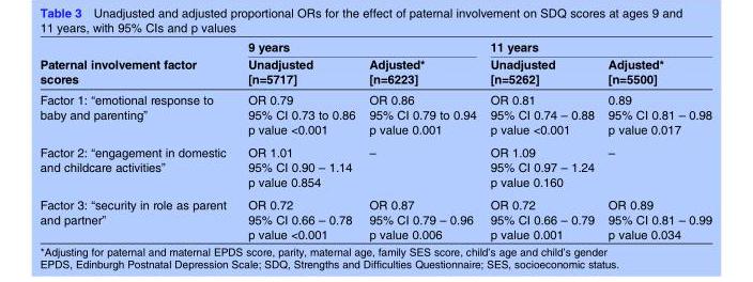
<table><thead><tr><td rowspan="2">Paternal involvement factor scores</td><td colspan="2">9 years</td><td colspan="2">11 years</td></tr><tr><td>Unadjusted [n=5717]</td><td>Adjusted* [n=6223]</td><td>Unadjusted [n=5262]</td><td>Adjusted* [n=5500]</td></tr></thead><tbody><tr><td>Factor 1: “emotional response to baby and parenting”</td><td>OR 0.79 95% CI 0.73 to 0.86 p value &lt;0.001</td><td>OR 0.86 95% CI 0.79 to 0.94 p value 0.001</td><td>OR 0.81 95% CI 0.74 – 0.88 p value &lt;0.001</td><td>0.89 95% CI 0.81 – 0.98 p value 0.017</td></tr><tr><td>Factor 2: “engagement in domestic and childcare activities”</td><td>OR 1.01 95% CI 0.90 – 1.14 p value 0.854</td><td>–</td><td>OR 1.09 95% CI 0.97 – 1.24 p value 0.160</td><td>–</td></tr><tr><td>Factor 3: “security in role as parent and partner”</td><td>OR 0.72 95% CI 0.66 – 0.78 p value &lt;0.001</td><td>OR 0.87 95% CI 0.79 – 0.96 p value 0.006</td><td>OR 0.72 95% CI 0.66 – 0.79 p value 0.001</td><td>OR 0.89 95% CI 0.81 – 0.99 p value 0.034</td></tr></tbody></table>